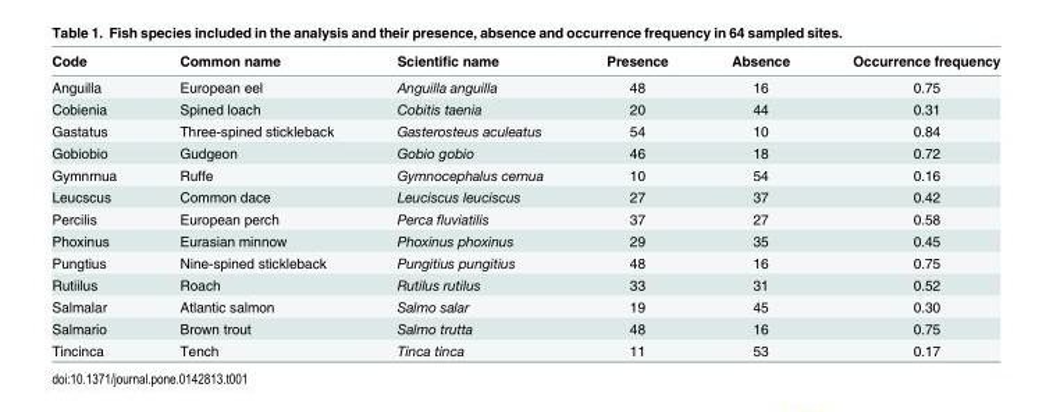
<table><thead><tr><td>Code</td><td>Common name</td><td>Scientific name</td><td>Presence</td><td>Absence</td><td>Occurrence frequency</td></tr></thead><tbody><tr><td>Anguilla</td><td>European eel</td><td>Anguilla anguilla</td><td>48</td><td>16</td><td>0.75</td></tr><tr><td>Cobienia</td><td>Spined loach</td><td>Cobitis taenia</td><td>20</td><td>44</td><td>0.31</td></tr><tr><td>Gastatus</td><td>Three-spined stickleback</td><td>Gasterosteus aculeatus</td><td>54</td><td>10</td><td>0.84</td></tr><tr><td>Gobiobio</td><td>Gudgeon</td><td>Gobio gobio</td><td>46</td><td>18</td><td>0.72</td></tr><tr><td>Gymnrnua</td><td>Ruffe</td><td>Gymnocephalus cernua</td><td>10</td><td>54</td><td>0.16</td></tr><tr><td>Leucscus</td><td>Common dace</td><td>Leuciscus leuciscus</td><td>27</td><td>37</td><td>0.42</td></tr><tr><td>Percilis</td><td>European perch</td><td>Perca fluviatilis</td><td>37</td><td>27</td><td>0.58</td></tr><tr><td>Phoxinus</td><td>Eurasian minnow</td><td>Phoxinus phoxinus</td><td>29</td><td>35</td><td>0.45</td></tr><tr><td>Pungtius</td><td>Nine-spined stickleback</td><td>Pungitius pungitius</td><td>48</td><td>16</td><td>0.75</td></tr><tr><td>Rutiilus</td><td>Roach</td><td>Rutilus rutilus</td><td>33</td><td>31</td><td>0.52</td></tr><tr><td>Salmalar</td><td>Atlantic salmon</td><td>Salmo salar</td><td>19</td><td>45</td><td>0.30</td></tr><tr><td>Salmario</td><td>Brown trout</td><td>Salmo trutta</td><td>48</td><td>16</td><td>0.75</td></tr><tr><td>Tincinca</td><td>Tench</td><td>Tinca tinca</td><td>11</td><td>53</td><td>0.17</td></tr></tbody></table>